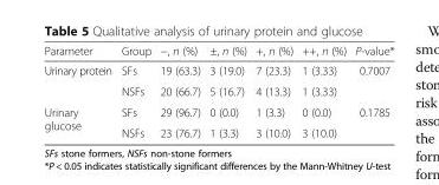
<table><thead><tr><td>Parameter</td><td>Group</td><td>−, n (%)</td><td>±, n (%)</td><td>+, n (%)</td><td>++, n (%)</td><td>P-value*</td></tr></thead><tbody><tr><td rowspan="2">Urinary protein</td><td>SFs</td><td>19 (63.3)</td><td>3 (19.0)</td><td>7 (23.3)</td><td>1 (3.33)</td><td>0.7007</td></tr><tr><td>NSFs</td><td>20 (66.7)</td><td>5 (16.7)</td><td>4 (13.3)</td><td>1 (3.33)</td><td></td></tr><tr><td rowspan="2">Urinary glucose</td><td>SFs</td><td>29 (96.7)</td><td>0 (0.0)</td><td>1 (3.3)</td><td>0 (0.0)</td><td>0.1785</td></tr><tr><td>NSFs</td><td>23 (76.7)</td><td>1 (3.3)</td><td>3 (10.0)</td><td>3 (10.0)</td><td></td></tr></tbody></table>